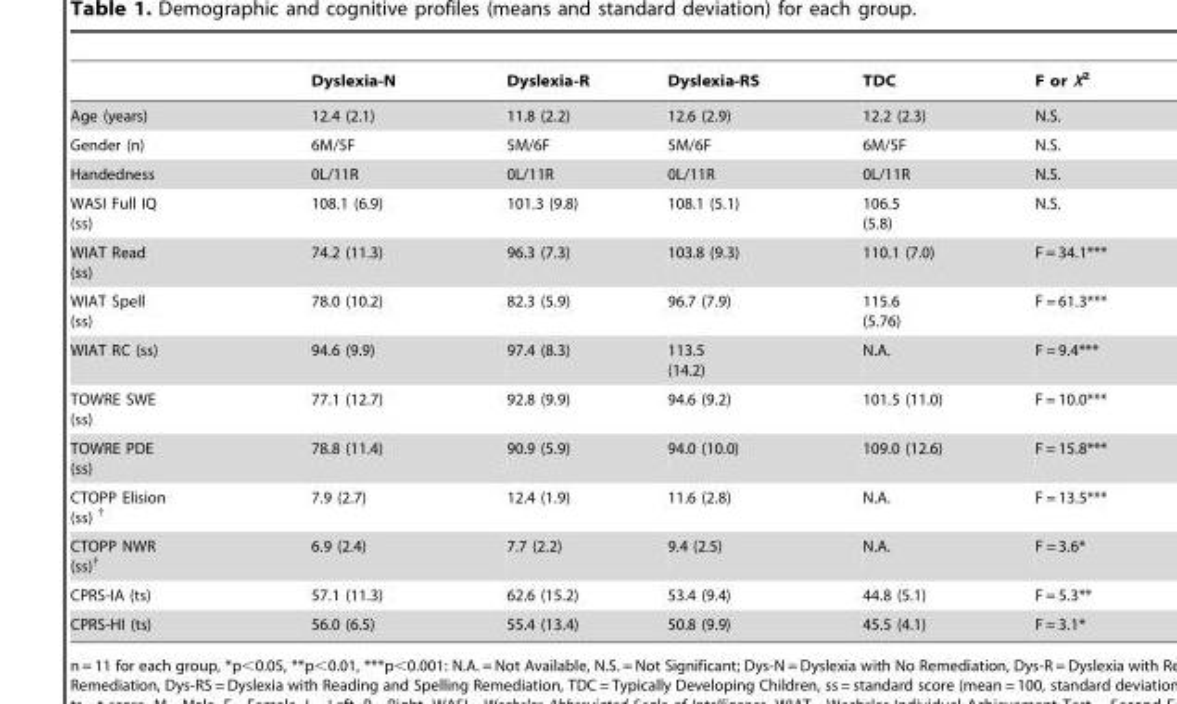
<table><thead><tr><td></td><td>Dyslexia-N</td><td>Dyslexia-R</td><td>Dyslexia-RS</td><td>TDC</td><td>F or X<sup>2</sup></td></tr></thead><tbody><tr><td>Age (years)</td><td>12.4 (2.1)</td><td>11.8 (2.2)</td><td>12.6 (2.9)</td><td>12.2 (2.3)</td><td>N.S.</td></tr><tr><td>Gender (n)</td><td>6M/5F</td><td>5M/6F</td><td>5M/6F</td><td>6M/5F</td><td>N.S.</td></tr><tr><td>Handedness</td><td>0L/11R</td><td>0L/11R</td><td>0L/11R</td><td>0L/11R</td><td>N.S.</td></tr><tr><td>WASI Full IQ (ss)</td><td>108.1 (6.9)</td><td>101.3 (9.8)</td><td>108.1 (5.1)</td><td>106.5 (5.8)</td><td>N.S.</td></tr><tr><td>WIAT Read (ss)</td><td>74.2 (11.3)</td><td>96.3 (7.3)</td><td>103.8 (9.3)</td><td>110.1 (7.0)</td><td>F = 34.1***</td></tr><tr><td>WIAT Spell (ss)</td><td>78.0 (10.2)</td><td>82.3 (5.9)</td><td>96.7 (7.9)</td><td>115.6 (5.76)</td><td>F = 61.3***</td></tr><tr><td>WIAT RC (ss)</td><td>94.6 (9.9)</td><td>97.4 (8.3)</td><td>113.5 (14.2)</td><td>N.A.</td><td>F = 9.4***</td></tr><tr><td>TOWRE SWE (ss)</td><td>77.1 (12.7)</td><td>92.8 (9.9)</td><td>94.6 (9.2)</td><td>101.5 (11.0)</td><td>F = 10.0***</td></tr><tr><td>TOWRE PDE (ss)</td><td>78.8 (11.4)</td><td>90.9 (5.9)</td><td>94.0 (10.0)</td><td>109.0 (12.6)</td><td>F = 15.8***</td></tr><tr><td>CTOPP Elision (ss) <sup>†</sup></td><td>7.9 (2.7)</td><td>12.4 (1.9)</td><td>11.6 (2.8)</td><td>N.A.</td><td>F = 13.5***</td></tr><tr><td>CTOPP NWR (ss)<sup>†</sup></td><td>6.9 (2.4)</td><td>7.7 (2.2)</td><td>9.4 (2.5)</td><td>N.A.</td><td>F = 3.6*</td></tr><tr><td>CPRS-IA (ts)</td><td>57.1 (11.3)</td><td>62.6 (15.2)</td><td>53.4 (9.4)</td><td>44.8 (5.1)</td><td>F = 5.3**</td></tr><tr><td>CPRS-HI (ts)</td><td>56.0 (6.5)</td><td>55.4 (13.4)</td><td>50.8 (9.9)</td><td>45.5 (4.1)</td><td>F = 3.1*</td></tr></tbody></table>